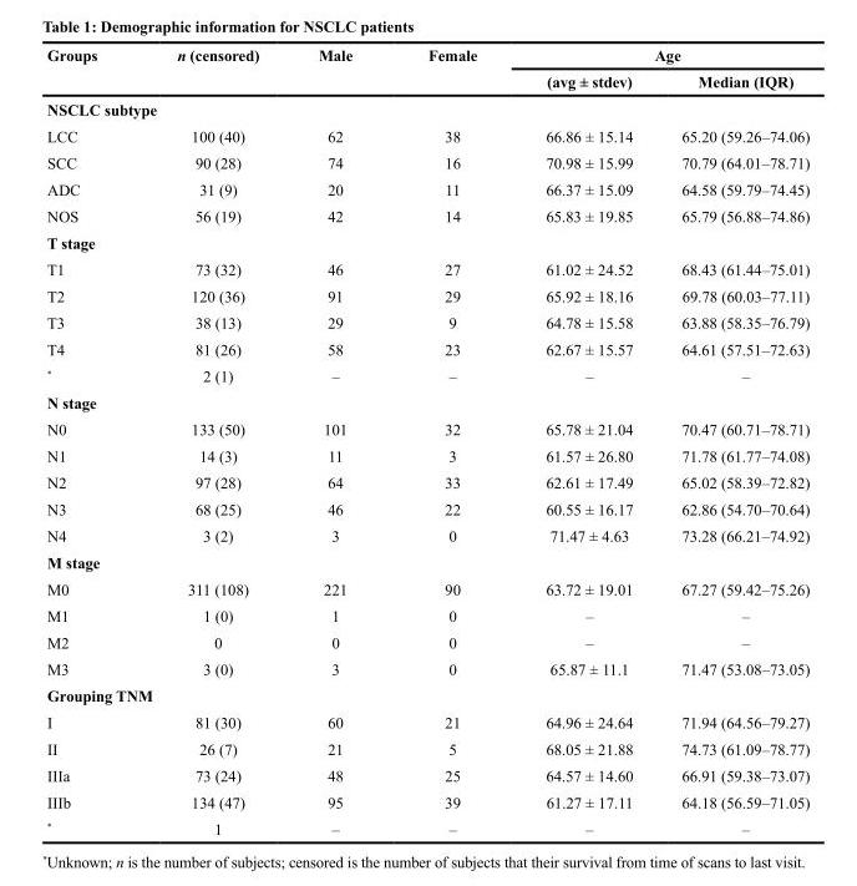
<table><thead><tr><td rowspan="2">Groups</td><td rowspan="2">n (censored)</td><td rowspan="2">Male</td><td rowspan="2">Female</td><td colspan="2">Age</td></tr><tr><td>(avg ± stdev)</td><td>Median (IQR)</td></tr></thead><tbody><tr><td colspan="6">NSCLC subtype</td></tr><tr><td>LCC</td><td>100 (40)</td><td>62</td><td>38</td><td>66.86 ± 15.14</td><td>65.20 (59.26–74.06)</td></tr><tr><td>SCC</td><td>90 (28)</td><td>74</td><td>16</td><td>70.98 ± 15.99</td><td>70.79 (64.01–78.71)</td></tr><tr><td>ADC</td><td>31 (9)</td><td>20</td><td>11</td><td>66.37 ± 15.09</td><td>64.58 (59.79–74.45)</td></tr><tr><td>NOS</td><td>56 (19)</td><td>42</td><td>14</td><td>65.83 ± 19.85</td><td>65.79 (56.88–74.86)</td></tr><tr><td colspan="6">T stage</td></tr><tr><td>T1</td><td>73 (32)</td><td>46</td><td>27</td><td>61.02 ± 24.52</td><td>68.43 (61.44–75.01)</td></tr><tr><td>T2</td><td>120 (36)</td><td>91</td><td>29</td><td>65.92 ± 18.16</td><td>69.78 (60.03–77.11)</td></tr><tr><td>T3</td><td>38 (13)</td><td>29</td><td>9</td><td>64.78 ± 15.58</td><td>63.88 (58.35–76.79)</td></tr><tr><td>T4</td><td>81 (26)</td><td>58</td><td>23</td><td>62.67 ± 15.57</td><td>64.61 (57.51–72.63)</td></tr><tr><td>*</td><td>2 (1)</td><td>–</td><td>–</td><td>–</td><td>–</td></tr><tr><td colspan="6">N stage</td></tr><tr><td>N0</td><td>133 (50)</td><td>101</td><td>32</td><td>65.78 ± 21.04</td><td>70.47 (60.71–78.71)</td></tr><tr><td>N1</td><td>14 (3)</td><td>11</td><td>3</td><td>61.57 ± 26.80</td><td>71.78 (61.77–74.08)</td></tr><tr><td>N2</td><td>97 (28)</td><td>64</td><td>33</td><td>62.61 ± 17.49</td><td>65.02 (58.39–72.82)</td></tr><tr><td>N3</td><td>68 (25)</td><td>46</td><td>22</td><td>60.55 ± 16.17</td><td>62.86 (54.70–70.64)</td></tr><tr><td>N4</td><td>3 (2)</td><td>3</td><td>0</td><td>71.47 ± 4.63</td><td>73.28 (66.21–74.92)</td></tr><tr><td colspan="6">M stage</td></tr><tr><td>M0</td><td>311 (108)</td><td>221</td><td>90</td><td>63.72 ± 19.01</td><td>67.27 (59.42–75.26)</td></tr><tr><td>M1</td><td>1 (0)</td><td>1</td><td>0</td><td>–</td><td>–</td></tr><tr><td>M2</td><td>0</td><td>0</td><td>0</td><td>–</td><td>–</td></tr><tr><td>M3</td><td>3 (0)</td><td>3</td><td>0</td><td>65.87 ± 11.1</td><td>71.47 (53.08–73.05)</td></tr><tr><td colspan="6">Grouping TNM</td></tr><tr><td>I</td><td>81 (30)</td><td>60</td><td>21</td><td>64.96 ± 24.64</td><td>71.94 (64.56–79.27)</td></tr><tr><td>II</td><td>26 (7)</td><td>21</td><td>5</td><td>68.05 ± 21.88</td><td>74.73 (61.09–78.77)</td></tr><tr><td>IIIa</td><td>73 (24)</td><td>48</td><td>25</td><td>64.57 ± 14.60</td><td>66.91 (59.38–73.07)</td></tr><tr><td>IIIb</td><td>134 (47)</td><td>95</td><td>39</td><td>61.27 ± 17.11</td><td>64.18 (56.59–71.05)</td></tr><tr><td>*</td><td>1</td><td>–</td><td>–</td><td>–</td><td>–</td></tr></tbody></table>